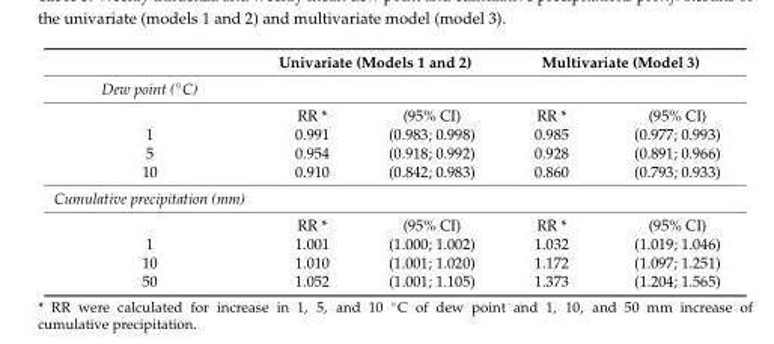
<table><thead><tr><td rowspan="2">Dew point (◦C)</td><td colspan="2">Univariate (Models 1 and 2)</td><td colspan="2">Multivariate (Model 3)</td></tr><tr><td></td><td></td><td></td><td></td></tr></thead><tbody><tr><td></td><td>RR *</td><td>(95% CI)</td><td>RR *</td><td>(95% CI)</td></tr><tr><td>1</td><td>0.991</td><td>(0.983; 0.998)</td><td>0.985</td><td>(0.977; 0.993)</td></tr><tr><td>5</td><td>0.954</td><td>(0.918; 0.992)</td><td>0.928</td><td>(0.891; 0.966)</td></tr><tr><td>10</td><td>0.910</td><td>(0.842; 0.983)</td><td>0.860</td><td>(0.793; 0.933)</td></tr><tr><td colspan="5">Cumulative precipitation (mm)</td></tr><tr><td></td><td>RR *</td><td>(95% CI)</td><td>RR *</td><td>(95% CI)</td></tr><tr><td>1</td><td>1.001</td><td>(1.000; 1.002)</td><td>1.032</td><td>(1.019; 1.046)</td></tr><tr><td>10</td><td>1.010</td><td>(1.001; 1.020)</td><td>1.172</td><td>(1.097; 1.251)</td></tr><tr><td>50</td><td>1.052</td><td>(1.001; 1.105)</td><td>1.373</td><td>(1.204; 1.565)</td></tr></tbody></table>